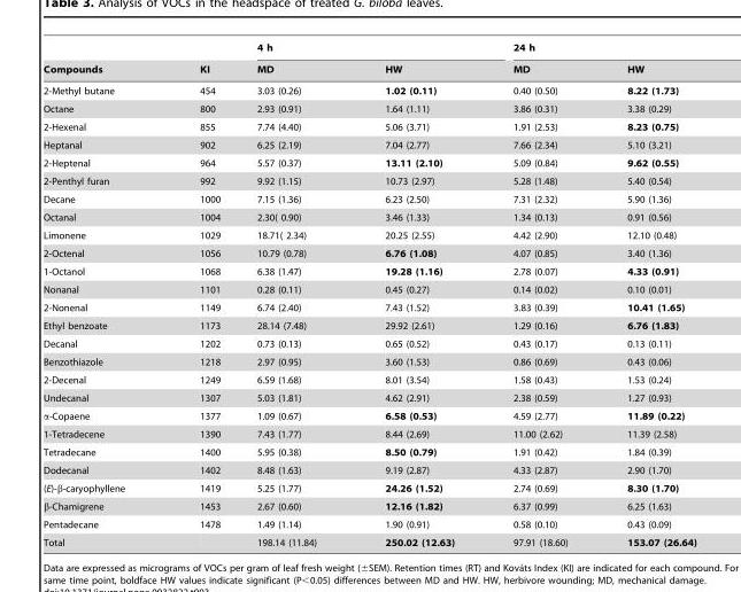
<table><thead><tr><td rowspan="2">Compounds</td><td rowspan="2">KI</td><td colspan="2">4 h</td><td colspan="2">24 h</td></tr><tr><td>MD</td><td>HW</td><td>MD</td><td>HW</td></tr></thead><tbody><tr><td>2-Methyl butane</td><td>454</td><td>3.03 (0.26)</td><td>1.02 (0.11)</td><td>0.40 (0.50)</td><td>8.22 (1.73)</td></tr><tr><td>Octane</td><td>800</td><td>2.93 (0.91)</td><td>1.64 (1.11)</td><td>3.86 (0.31)</td><td>3.38 (0.29)</td></tr><tr><td>2-Hexenal</td><td>855</td><td>7.74 (4.40)</td><td>5.06 (3.71)</td><td>1.91 (2.53)</td><td>8.23 (0.75)</td></tr><tr><td>Heptanal</td><td>902</td><td>6.25 (2.19)</td><td>7.04 (2.77)</td><td>7.66 (2.34)</td><td>5.10 (3.21)</td></tr><tr><td>2-Heptenal</td><td>964</td><td>5.57 (0.37)</td><td>13.11 (2.10)</td><td>5.09 (0.84)</td><td>9.62 (0.55)</td></tr><tr><td>2-Penthyl furan</td><td>992</td><td>9.92 (1.15)</td><td>10.73 (2.97)</td><td>5.28 (1.48)</td><td>5.40 (0.54)</td></tr><tr><td>Decane</td><td>1000</td><td>7.15 (1.36)</td><td>6.23 (2.50)</td><td>7.31 (2.32)</td><td>5.90 (1.36)</td></tr><tr><td>Octanal</td><td>1004</td><td>2.30( 0.90)</td><td>3.46 (1.33)</td><td>1.34 (0.13)</td><td>0.91 (0.56)</td></tr><tr><td>Limonene</td><td>1029</td><td>18.71( 2.34)</td><td>20.25 (2.55)</td><td>4.42 (2.90)</td><td>12.10 (0.48)</td></tr><tr><td>2-Octenal</td><td>1056</td><td>10.79 (0.78)</td><td>6.76 (1.08)</td><td>4.07 (0.85)</td><td>3.40 (1.36)</td></tr><tr><td>1-Octanol</td><td>1068</td><td>6.38 (1.47)</td><td>19.28 (1.16)</td><td>2.78 (0.07)</td><td>4.33 (0.91)</td></tr><tr><td>Nonanal</td><td>1101</td><td>0.28 (0.11)</td><td>0.45 (0.27)</td><td>0.14 (0.02)</td><td>0.10 (0.01)</td></tr><tr><td>2-Nonenal</td><td>1149</td><td>6.74 (2.40)</td><td>7.43 (1.52)</td><td>3.83 (0.39)</td><td>10.41 (1.65)</td></tr><tr><td>Ethyl benzoate</td><td>1173</td><td>28.14 (7.48)</td><td>29.92 (2.61)</td><td>1.29 (0.16)</td><td>6.76 (1.83)</td></tr><tr><td>Decanal</td><td>1202</td><td>0.73 (0.13)</td><td>0.65 (0.52)</td><td>0.43 (0.17)</td><td>0.13 (0.11)</td></tr><tr><td>Benzothiazole</td><td>1218</td><td>2.97 (0.95)</td><td>3.60 (1.53)</td><td>0.86 (0.69)</td><td>0.43 (0.06)</td></tr><tr><td>2-Decenal</td><td>1249</td><td>6.59 (1.68)</td><td>8.01 (3.54)</td><td>1.58 (0.43)</td><td>1.53 (0.24)</td></tr><tr><td>Undecanal</td><td>1307</td><td>5.03 (1.81)</td><td>4.62 (2.91)</td><td>2.38 (0.59)</td><td>1.27 (0.93)</td></tr><tr><td>α-Copaene</td><td>1377</td><td>1.09 (0.67)</td><td>6.58 (0.53)</td><td>4.59 (2.77)</td><td>11.89 (0.22)</td></tr><tr><td>1-Tetradecene</td><td>1390</td><td>7.43 (1.77)</td><td>8.44 (2.69)</td><td>11.00 (2.62)</td><td>11.39 (2.58)</td></tr><tr><td>Tetradecane</td><td>1400</td><td>5.95 (0.38)</td><td>8.50 (0.79)</td><td>1.91 (0.42)</td><td>1.84 (0.39)</td></tr><tr><td>Dodecanal</td><td>1402</td><td>8.48 (1.63)</td><td>9.19 (2.87)</td><td>4.33 (2.87)</td><td>2.90 (1.70)</td></tr><tr><td>(E)-β-caryophyllene</td><td>1419</td><td>5.25 (1.77)</td><td>24.26 (1.52)</td><td>2.74 (0.69)</td><td>8.30 (1.70)</td></tr><tr><td>β-Chamigrene</td><td>1453</td><td>2.67 (0.60)</td><td>12.16 (1.82)</td><td>6.37 (0.99)</td><td>6.25 (1.63)</td></tr><tr><td>Pentadecane</td><td>1478</td><td>1.49 (1.14)</td><td>1.90 (0.91)</td><td>0.58 (0.10)</td><td>0.43 (0.09)</td></tr><tr><td>Total</td><td></td><td>198.14 (11.84)</td><td>250.02 (12.63)</td><td>97.91 (18.60)</td><td>153.07 (26.64)</td></tr></tbody></table>